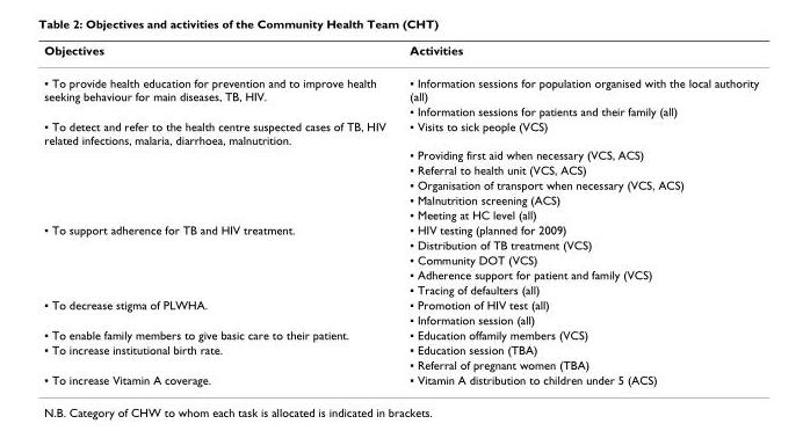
<table><thead><tr><td>Objectives</td><td>Activities</td></tr></thead><tbody><tr><td rowspan="2">▪ To provide health education for prevention and to improve health seeking behaviour for main diseases, TB, HIV.</td><td>▪ Information sessions for population organised with the local authority (all)</td></tr><tr><td>▪ Information sessions for patients and their family (all)</td></tr><tr><td rowspan="6">▪ To detect and refer to the health centre suspected cases of TB, HIV related infections, malaria, diarrhoea, malnutrition.</td><td>▪ Visits to sick people (VCS)</td></tr><tr><td>▪ Providing first aid when necessary (VCS, ACS)</td></tr><tr><td>▪ Referral to health unit (VCS, ACS)</td></tr><tr><td>▪ Organisation of transport when necessary (VCS, ACS)</td></tr><tr><td>▪ Malnutrition screening (ACS)</td></tr><tr><td>▪ Meeting at HC level (all)</td></tr><tr><td rowspan="5">▪ To support adherence for TB and HIV treatment.</td><td>▪ HIV testing (planned for 2009)</td></tr><tr><td>▪ Distribution of TB treatment (VCS)</td></tr><tr><td>▪ Community DOT (VCS)</td></tr><tr><td>▪ Adherence support for patient and family (VCS)</td></tr><tr><td>▪ Tracing of defaulters (all)</td></tr><tr><td rowspan="2">▪ To decrease stigma of PLWHA.</td><td>▪ Promotion of HIV test (all)</td></tr><tr><td>▪ Information session (all)</td></tr><tr><td>▪ To enable family members to give basic care to their patient.</td><td>▪ Education offamily members (VCS)</td></tr><tr><td rowspan="2">▪ To increase institutional birth rate.</td><td>▪ Education session (TBA)</td></tr><tr><td>▪ Referral of pregnant women (TBA)</td></tr><tr><td>▪ To increase Vitamin A coverage.</td><td>▪ Vitamin A distribution to children under 5 (ACS)</td></tr></tbody></table>